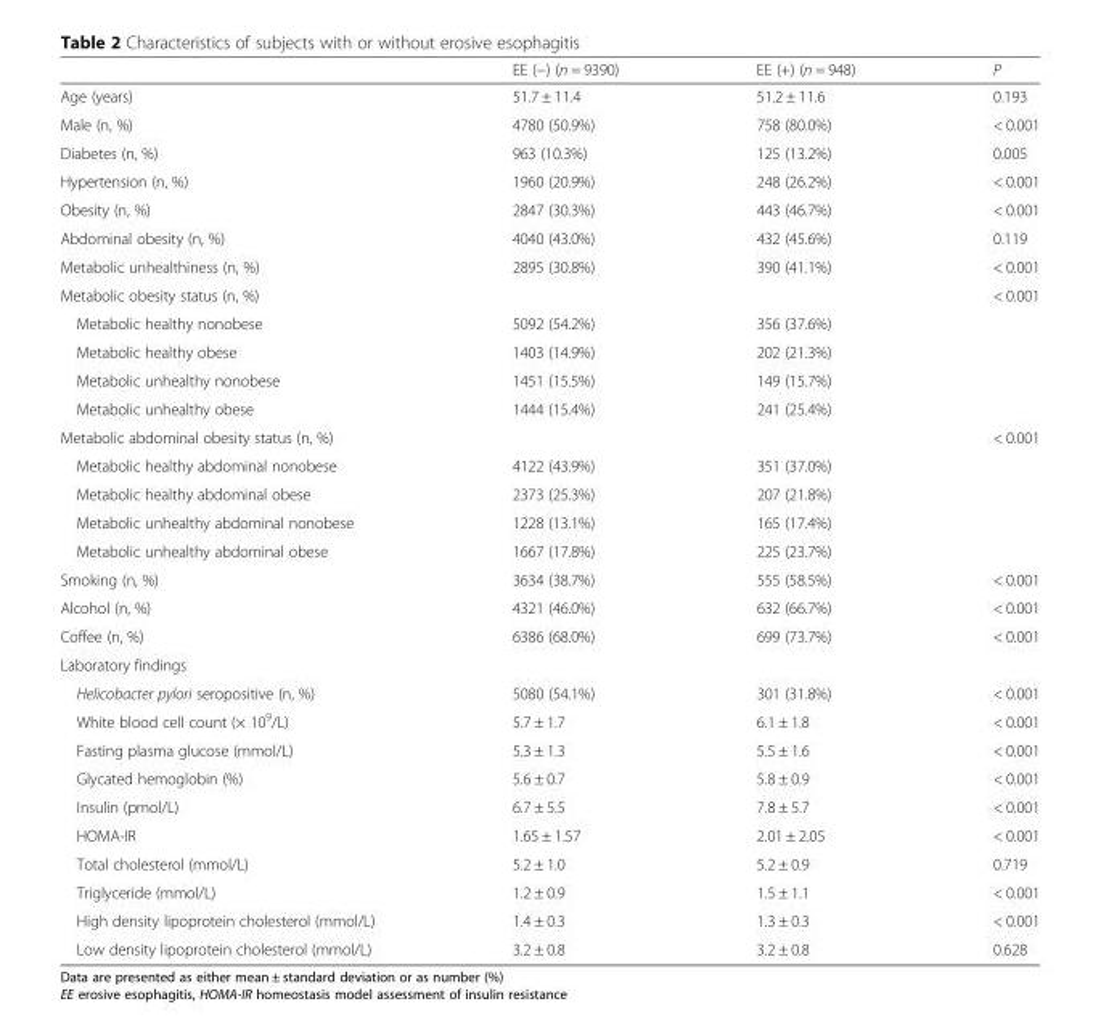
<table><thead><tr><td></td><td>EE (−) (n = 9390)</td><td>EE (+) (n = 948)</td><td>P</td></tr></thead><tbody><tr><td>Age (years)</td><td>51.7 ± 11.4</td><td>51.2 ± 11.6</td><td>0.193</td></tr><tr><td>Male (n, %)</td><td>4780 (50.9%)</td><td>758 (80.0%)</td><td>&lt; 0.001</td></tr><tr><td>Diabetes (n, %)</td><td>963 (10.3%)</td><td>125 (13.2%)</td><td>0.005</td></tr><tr><td>Hypertension (n, %)</td><td>1960 (20.9%)</td><td>248 (26.2%)</td><td>&lt; 0.001</td></tr><tr><td>Obesity (n, %)</td><td>2847 (30.3%)</td><td>443 (46.7%)</td><td>&lt; 0.001</td></tr><tr><td>Abdominal obesity (n, %)</td><td>4040 (43.0%)</td><td>432 (45.6%)</td><td>0.119</td></tr><tr><td>Metabolic unhealthiness (n, %)</td><td>2895 (30.8%)</td><td>390 (41.1%)</td><td>&lt; 0.001</td></tr><tr><td>Metabolic obesity status (n, %)</td><td></td><td></td><td>&lt; 0.001</td></tr><tr><td>Metabolic healthy nonobese</td><td>5092 (54.2%)</td><td>356 (37.6%)</td><td rowspan="4"></td></tr><tr><td>Metabolic healthy obese</td><td>1403 (14.9%)</td><td>202 (21.3%)</td></tr><tr><td>Metabolic unhealthy nonobese</td><td>1451 (15.5%)</td><td>149 (15.7%)</td></tr><tr><td>Metabolic unhealthy obese</td><td>1444 (15.4%)</td><td>241 (25.4%)</td></tr><tr><td>Metabolic abdominal obesity status (n, %)</td><td></td><td></td><td>&lt; 0.001</td></tr><tr><td>Metabolic healthy abdominal nonobese</td><td>4122 (43.9%)</td><td>351 (37.0%)</td><td rowspan="4"></td></tr><tr><td>Metabolic healthy abdominal obese</td><td>2373 (25.3%)</td><td>207 (21.8%)</td></tr><tr><td>Metabolic unhealthy abdominal nonobese</td><td>1228 (13.1%)</td><td>165 (17.4%)</td></tr><tr><td>Metabolic unhealthy abdominal obese</td><td>1667 (17.8%)</td><td>225 (23.7%)</td></tr><tr><td>Smoking (n, %)</td><td>3634 (38.7%)</td><td>555 (58.5%)</td><td>&lt; 0.001</td></tr><tr><td>Alcohol (n, %)</td><td>4321 (46.0%)</td><td>632 (66.7%)</td><td>&lt; 0.001</td></tr><tr><td>Coffee (n, %)</td><td>6386 (68.0%)</td><td>699 (73.7%)</td><td>&lt; 0.001</td></tr><tr><td colspan="4">Laboratory findings</td></tr><tr><td>Helicobacter pylori seropositive (n, %)</td><td>5080 (54.1%)</td><td>301 (31.8%)</td><td>&lt; 0.001</td></tr><tr><td>White blood cell count (× 10<sup>9</sup>/L)</td><td>5.7 ± 1.7</td><td>6.1 ± 1.8</td><td>&lt; 0.001</td></tr><tr><td>Fasting plasma glucose (mmol/L)</td><td>5.3 ± 1.3</td><td>5.5 ± 1.6</td><td>&lt; 0.001</td></tr><tr><td>Glycated hemoglobin (%)</td><td>5.6 ± 0.7</td><td>5.8 ± 0.9</td><td>&lt; 0.001</td></tr><tr><td>Insulin (pmol/L)</td><td>6.7 ± 5.5</td><td>7.8 ± 5.7</td><td>&lt; 0.001</td></tr><tr><td>HOMA-IR</td><td>1.65 ± 1.57</td><td>2.01 ± 2.05</td><td>&lt; 0.001</td></tr><tr><td>Total cholesterol (mmol/L)</td><td>5.2 ± 1.0</td><td>5.2 ± 0.9</td><td>0.719</td></tr><tr><td>Triglyceride (mmol/L)</td><td>1.2 ± 0.9</td><td>1.5 ± 1.1</td><td>&lt; 0.001</td></tr><tr><td>High density lipoprotein cholesterol (mmol/L)</td><td>1.4 ± 0.3</td><td>1.3 ± 0.3</td><td>&lt; 0.001</td></tr><tr><td>Low density lipoprotein cholesterol (mmol/L)</td><td>3.2 ± 0.8</td><td>3.2 ± 0.8</td><td>0.628</td></tr></tbody></table>